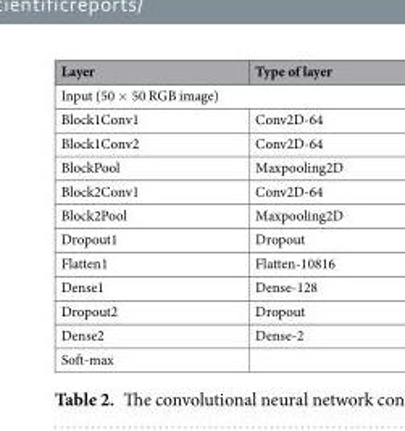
<table><thead><tr><td>Layer</td><td>Type of layer</td></tr></thead><tbody><tr><td colspan="2">Input (50 × 50 RGB image)</td></tr><tr><td>Block1Conv1</td><td>Conv2D-64</td></tr><tr><td>Block1Conv2</td><td>Conv2D-64</td></tr><tr><td>BlockPool</td><td>Maxpooling2D</td></tr><tr><td>Block2Conv1</td><td>Conv2D-64</td></tr><tr><td>Block2Pool</td><td>Maxpooling2D</td></tr><tr><td>Dropout1</td><td>Dropout</td></tr><tr><td>Flatten1</td><td>Flatten-10816</td></tr><tr><td>Dense1</td><td>Dense-128</td></tr><tr><td>Dropout2</td><td>Dropout</td></tr><tr><td>Dense2</td><td>Dense-2</td></tr><tr><td>Soft-max</td><td></td></tr></tbody></table>